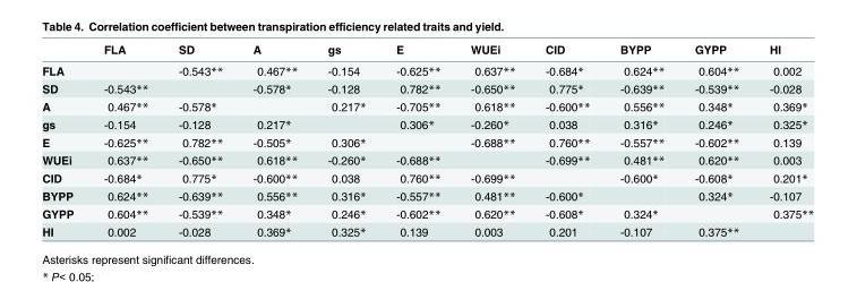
<table><thead><tr><td></td><td>FLA</td><td>SD</td><td>A</td><td>gs</td><td>E</td><td>WUEi</td><td>CID</td><td>BYPP</td><td>GYPP</td><td>HI</td></tr></thead><tbody><tr><td>FLA</td><td></td><td>-0.543**</td><td>0.467**</td><td>-0.154</td><td>-0.625**</td><td>0.637**</td><td>-0.684*</td><td>0.624**</td><td>0.604**</td><td>0.002</td></tr><tr><td>SD</td><td>-0.543**</td><td></td><td>-0.578*</td><td>-0.128</td><td>0.782**</td><td>-0.650**</td><td>0.775*</td><td>-0.639**</td><td>-0.539**</td><td>-0.028</td></tr><tr><td>A</td><td>0.467**</td><td>-0.578*</td><td></td><td>0.217*</td><td>-0.705**</td><td>0.618**</td><td>-0.600**</td><td>0.556**</td><td>0.348*</td><td>0.369*</td></tr><tr><td>gs</td><td>-0.154</td><td>-0.128</td><td>0.217*</td><td></td><td>0.306*</td><td>-0.260*</td><td>0.038</td><td>0.316*</td><td>0.246*</td><td>0.325*</td></tr><tr><td>E</td><td>-0.625**</td><td>0.782**</td><td>-0.505*</td><td>0.306*</td><td></td><td>-0.688**</td><td>0.760**</td><td>-0.557**</td><td>-0.602**</td><td>0.139</td></tr><tr><td>WUEi</td><td>0.637**</td><td>-0.650**</td><td>0.618**</td><td>-0.260*</td><td>-0.688**</td><td></td><td>-0.699**</td><td>0.481**</td><td>0.620**</td><td>0.003</td></tr><tr><td>CID</td><td>-0.684*</td><td>0.775*</td><td>-0.600**</td><td>0.038</td><td>0.760**</td><td>-0.699**</td><td></td><td>-0.600*</td><td>-0.608*</td><td>0.201*</td></tr><tr><td>BYPP</td><td>0.624**</td><td>-0.639**</td><td>0.556**</td><td>0.316*</td><td>-0.557**</td><td>0.481**</td><td>-0.600*</td><td></td><td>0.324*</td><td>-0.107</td></tr><tr><td>GYPP</td><td>0.604**</td><td>-0.539**</td><td>0.348*</td><td>0.246*</td><td>-0.602**</td><td>0.620**</td><td>-0.608*</td><td>0.324*</td><td></td><td>0.375**</td></tr><tr><td>HI</td><td>0.002</td><td>-0.028</td><td>0.369*</td><td>0.325*</td><td>0.139</td><td>0.003</td><td>0.201</td><td>-0.107</td><td>0.375**</td><td></td></tr></tbody></table>